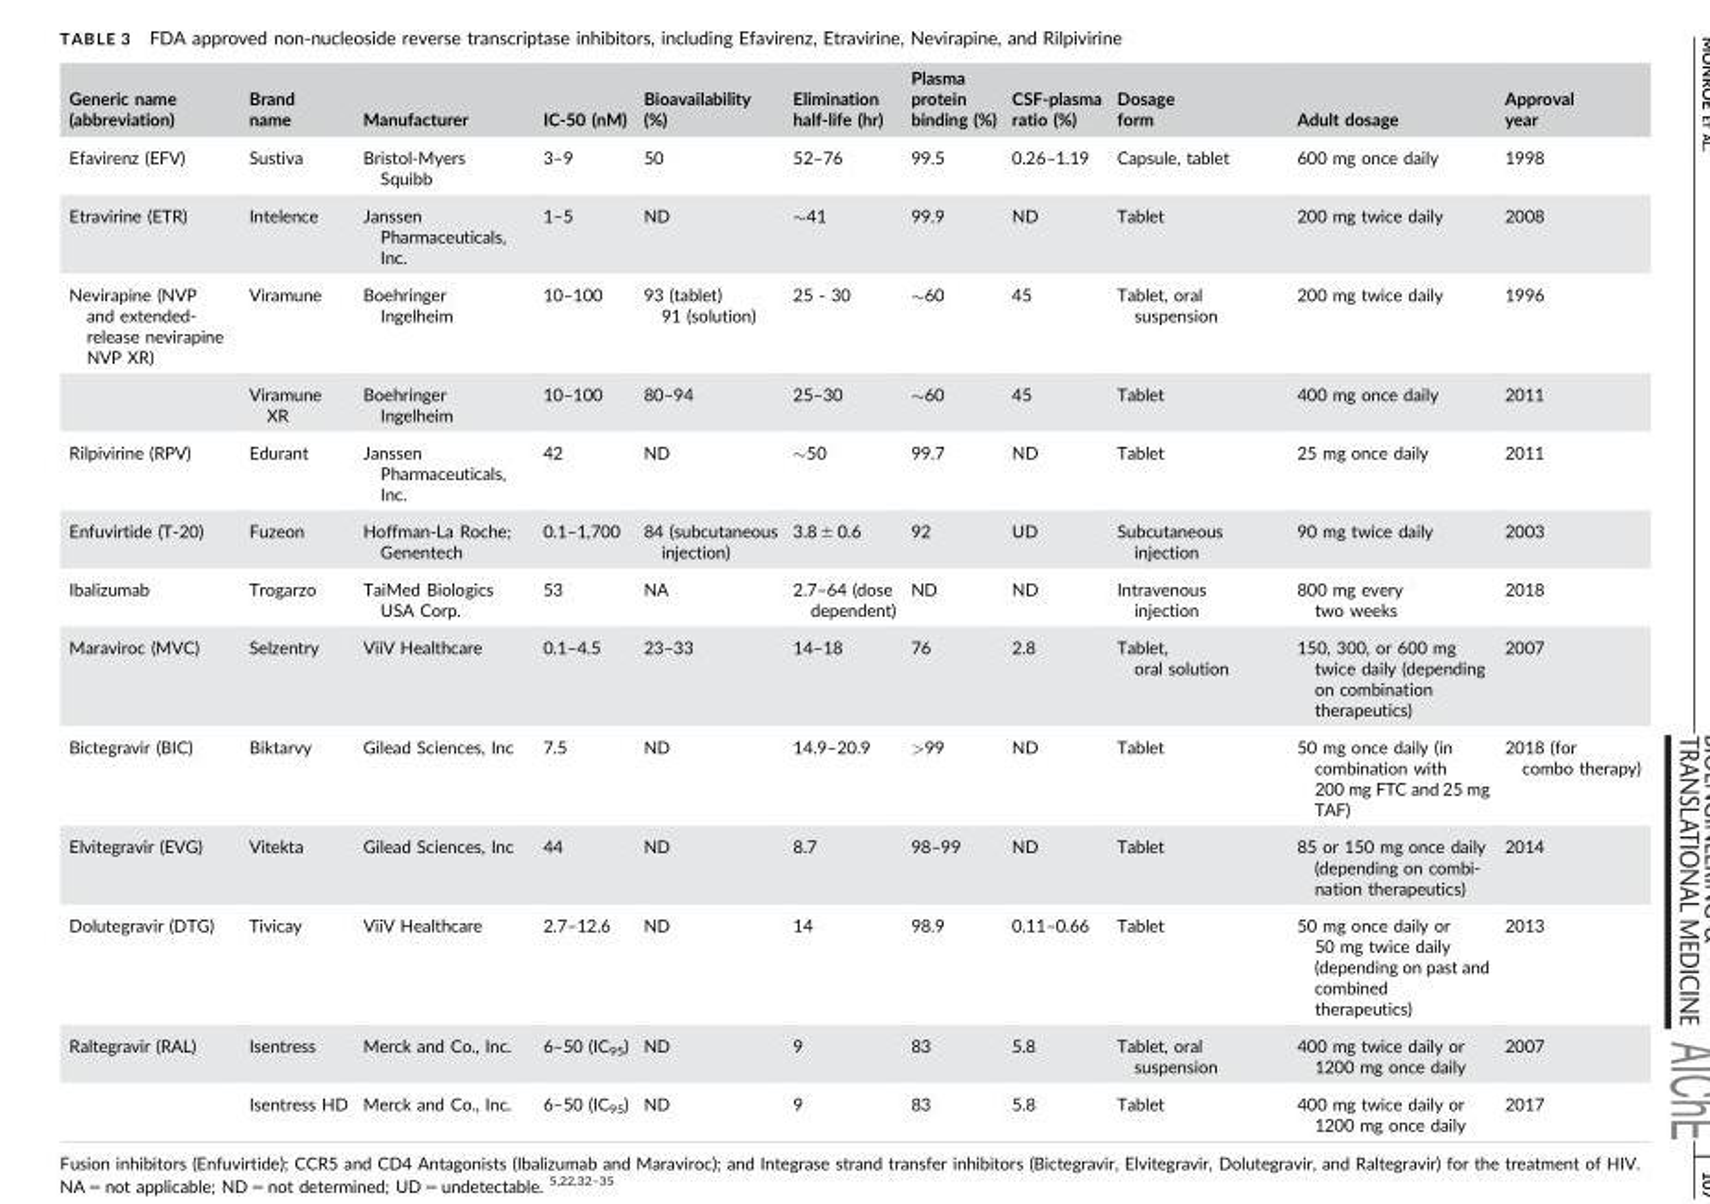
<table><thead><tr><td>Generic name (abbreviation)</td><td>Brand name</td><td>Manufacturer</td><td>IC-50 (nM)</td><td>Bioavailability (%)</td><td>Elimination half-life (hr)</td><td>Plasma protein binding (%)</td><td>CSF-plasma ratio (%)</td><td>Dosage form</td><td>Adult dosage</td><td>Approval year</td></tr></thead><tbody><tr><td>Efavirenz (EFV)</td><td>Sustiva</td><td>Bristol-Myers Squibb</td><td>3–9</td><td>50</td><td>52–76</td><td>99.5</td><td>0.26–1.19</td><td>Capsule, tablet</td><td>600 mg once daily</td><td>1998</td></tr><tr><td>Etravirine (ETR)</td><td>Intelence</td><td>Janssen Pharmaceuticals, Inc.</td><td>1–5</td><td>ND</td><td>∼41</td><td>99.9</td><td>ND</td><td>Tablet</td><td>200 mg twice daily</td><td>2008</td></tr><tr><td rowspan="2">Nevirapine (NVP and extended- release nevirapine NVP XR)</td><td>Viramune</td><td>Boehringer Ingelheim</td><td>10–100</td><td>93 (tablet) 91 (solution)</td><td>25 - 30</td><td>∼60</td><td>45</td><td>Tablet, oral suspension</td><td>200 mg twice daily</td><td>1996</td></tr><tr><td>Viramune XR</td><td>Boehringer Ingelheim</td><td>10–100</td><td>80–94</td><td>25–30</td><td>∼60</td><td>45</td><td>Tablet</td><td>400 mg once daily</td><td>2011</td></tr><tr><td>Rilpivirine (RPV)</td><td>Edurant</td><td>Janssen Pharmaceuticals, Inc.</td><td>42</td><td>ND</td><td>∼50</td><td>99.7</td><td>ND</td><td>Tablet</td><td>25 mg once daily</td><td>2011</td></tr><tr><td>Enfuvirtide (T-20)</td><td>Fuzeon</td><td>Hoffman-La Roche; Genentech</td><td>0.1–1,700</td><td>84 (subcutaneous injection)</td><td>3.8 ± 0.6</td><td>92</td><td>UD</td><td>Subcutaneous injection</td><td>90 mg twice daily</td><td>2003</td></tr><tr><td>Ibalizumab</td><td>Trogarzo</td><td>TaiMed Biologics USA Corp.</td><td>53</td><td>NA</td><td>2.7–64 (dose dependent)</td><td>ND</td><td>ND</td><td>Intravenous injection</td><td>800 mg every two weeks</td><td>2018</td></tr><tr><td>Maraviroc (MVC)</td><td>Selzentry</td><td>ViiV Healthcare</td><td>0.1–4.5</td><td>23–33</td><td>14–18</td><td>76</td><td>2.8</td><td>Tablet, oral solution</td><td>150, 300, or 600 mg twice daily (depending on combination therapeutics)</td><td>2007</td></tr><tr><td>Bictegravir (BIC)</td><td>Biktarvy</td><td>Gilead Sciences, Inc</td><td>7.5</td><td>ND</td><td>14.9–20.9</td><td>&gt;99</td><td>ND</td><td>Tablet</td><td>50 mg once daily (in combination with 200 mg FTC and 25 mg TAF)</td><td>2018 (for combo therapy)</td></tr><tr><td>Elvitegravir (EVG)</td><td>Vitekta</td><td>Gilead Sciences, Inc</td><td>44</td><td>ND</td><td>8.7</td><td>98–99</td><td>ND</td><td>Tablet</td><td>85 or 150 mg once daily (depending on combi- nation therapeutics)</td><td>2014</td></tr><tr><td>Dolutegravir (DTG)</td><td>Tivicay</td><td>ViiV Healthcare</td><td>2.7–12.6</td><td>ND</td><td>14</td><td>98.9</td><td>0.11–0.66</td><td>Tablet</td><td>50 mg once daily or 50 mg twice daily (depending on past and combined therapeutics)</td><td>2013</td></tr><tr><td rowspan="2">Raltegravir (RAL)</td><td>Isentress</td><td>Merck and Co., Inc.</td><td>6–50 (IC<sub>95</sub>)</td><td>ND</td><td>9</td><td>83</td><td>5.8</td><td>Tablet, oral suspension</td><td>400 mg twice daily or 1200 mg once daily</td><td>2007</td></tr><tr><td>Isentress HD</td><td>Merck and Co., Inc.</td><td>6–50 (IC<sub>95</sub>)</td><td>ND</td><td>9</td><td>83</td><td>5.8</td><td>Tablet</td><td>400 mg twice daily or 1200 mg once daily</td><td>2017</td></tr></tbody></table>